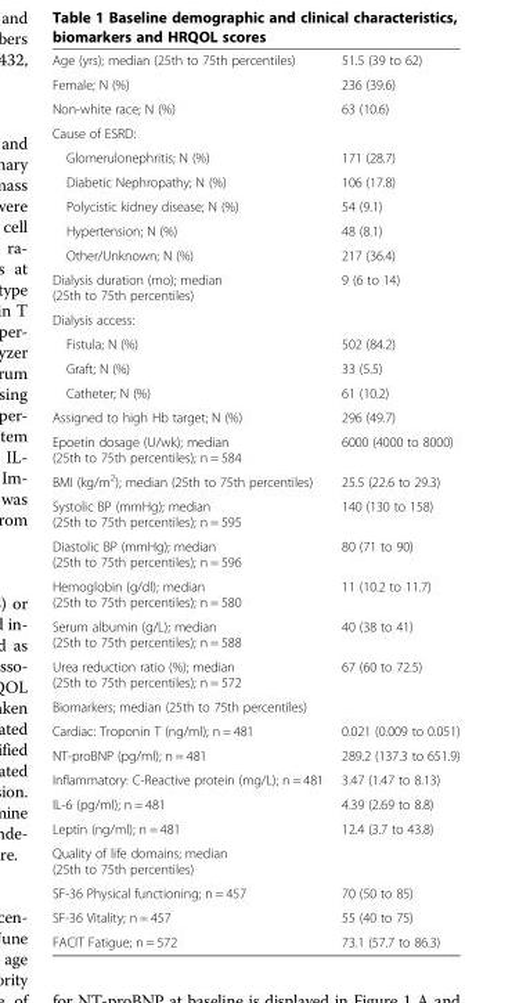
<table><tbody><tr><td>Age (yrs); median (25th to 75th percentiles)</td><td>51.5 (39 to 62)</td></tr><tr><td>Female; N (%)</td><td>236 (39.6)</td></tr><tr><td>Non-white race; N (%)</td><td>63 (10.6)</td></tr><tr><td colspan="2">Cause of ESRD:</td></tr><tr><td>Glomerulonephritis; N (%)</td><td>171 (28.7)</td></tr><tr><td>Diabetic Nephropathy; N (%)</td><td>106 (17.8)</td></tr><tr><td>Polycistic kidney disease; N (%)</td><td>54 (9.1)</td></tr><tr><td>Hypertension; N (%)</td><td>48 (8.1)</td></tr><tr><td>Other/Unknown; N (%)</td><td>217 (36.4)</td></tr><tr><td>Dialysis duration (mo); median (25th to 75th percentiles)</td><td>9 (6 to 14)</td></tr><tr><td colspan="2">Dialysis access:</td></tr><tr><td>Fistula; N (%)</td><td>502 (84.2)</td></tr><tr><td>Graft; N (%)</td><td>33 (5.5)</td></tr><tr><td>Catheter; N (%)</td><td>61 (10.2)</td></tr><tr><td>Assigned to high Hb target; N (%)</td><td>296 (49.7)</td></tr><tr><td>Epoetin dosage (U/wk); median (25th to 75th percentiles); n = 584</td><td>6000 (4000 to 8000)</td></tr><tr><td>BMI (kg/m<sup>2</sup>); median (25th to 75th percentiles)</td><td>25.5 (22.6 to 29.3)</td></tr><tr><td>Systolic BP (mmHg); median (25th to 75th percentiles); n = 595</td><td>140 (130 to 158)</td></tr><tr><td>Diastolic BP (mmHg); median (25th to 75th percentiles); n = 596</td><td>80 (71 to 90)</td></tr><tr><td>Hemoglobin (g/dl); median (25th to 75th percentiles); n = 580</td><td>11 (10.2 to 11.7)</td></tr><tr><td>Serum albumin (g/L); median (25th to 75th percentiles); n = 588</td><td>40 (38 to 41)</td></tr><tr><td>Urea reduction ratio (%); median (25th to 75th percentiles); n = 572</td><td>67 (60 to 72.5)</td></tr><tr><td colspan="2">Biomarkers; median (25th to 75th percentiles)</td></tr><tr><td>Cardiac: Troponin T (ng/ml); n = 481</td><td>0.021 (0.009 to 0.051)</td></tr><tr><td>NT-proBNP (pg/ml); n = 481</td><td>289.2 (137.3 to 651.9)</td></tr><tr><td>Inflammatory: C-Reactive protein (mg/L); n = 481</td><td>3.47 (1.47 to 8.13)</td></tr><tr><td>IL-6 (pg/ml); n = 481</td><td>4.39 (2.69 to 8.8)</td></tr><tr><td>Leptin (ng/ml); n = 481</td><td>12.4 (3.7 to 43.8)</td></tr><tr><td colspan="2">Quality of life domains; median (25th to 75th percentiles)</td></tr><tr><td>SF-36 Physical functioning; n = 457</td><td>70 (50 to 85)</td></tr><tr><td>SF-36 Vitality; n = 457</td><td>55 (40 to 75)</td></tr><tr><td>FACIT Fatigue; n = 572</td><td>73.1 (57.7 to 86.3)</td></tr></tbody></table>